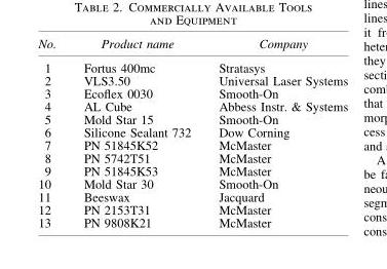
<table><thead><tr><td>No.</td><td>Product name</td><td>Company</td></tr></thead><tbody><tr><td>1</td><td>Fortus 400mc</td><td>Stratasys</td></tr><tr><td>2</td><td>VLS3.50</td><td>Universal Laser Systems</td></tr><tr><td>3</td><td>Ecoflex 0030</td><td>Smooth-On</td></tr><tr><td>4</td><td>AL Cube</td><td>Abbess Instr. &amp; Systems</td></tr><tr><td>5</td><td>Mold Star 15</td><td>Smooth-On</td></tr><tr><td>6</td><td>Silicone Sealant 732</td><td>Dow Corning</td></tr><tr><td>7</td><td>PN 51845K52</td><td>McMaster</td></tr><tr><td>8</td><td>PN 5742T51</td><td>McMaster</td></tr><tr><td>9</td><td>PN 51845K53</td><td>McMaster</td></tr><tr><td>10</td><td>Mold Star 30</td><td>Smooth-On</td></tr><tr><td>11</td><td>Beeswax</td><td>Jacquard</td></tr><tr><td>12</td><td>PN 2153T31</td><td>McMaster</td></tr><tr><td>13</td><td>PN 9808K21</td><td>McMaster</td></tr></tbody></table>